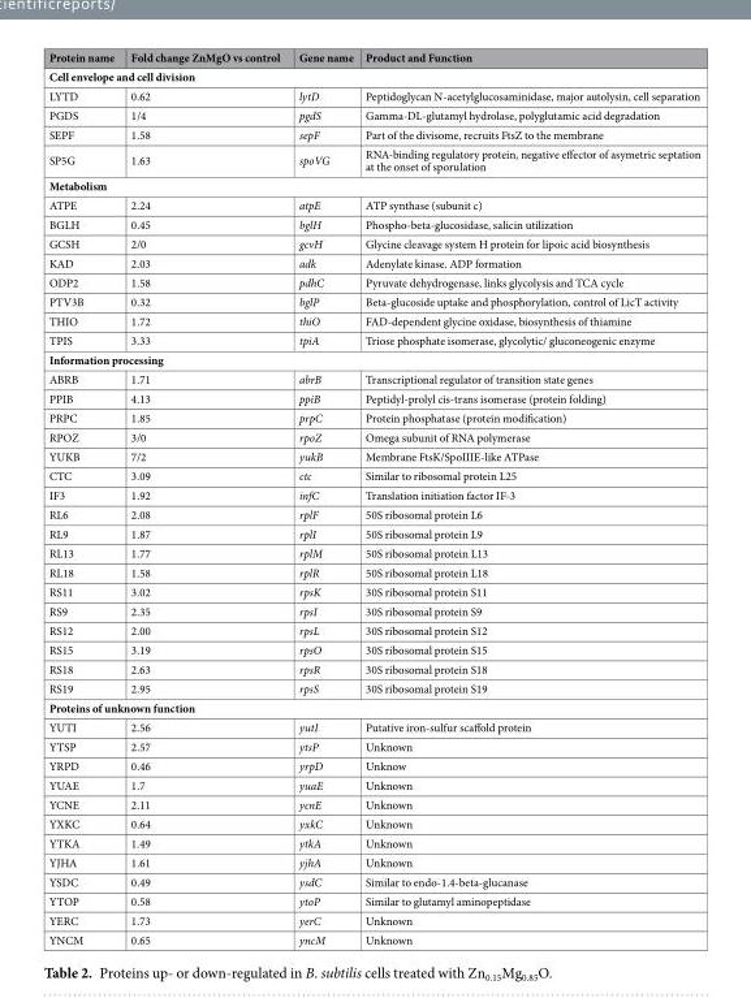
<table><thead><tr><td>Protein name</td><td>Fold change ZnMgO vs control</td><td>Gene name</td><td>Product and Function</td></tr></thead><tbody><tr><td colspan="4">Cell envelope and cell division</td></tr><tr><td>LYTD</td><td>0.62</td><td>lytD</td><td>Peptidoglycan N-acetylglucosaminidase, major autolysin, cell separation</td></tr><tr><td>PGDS</td><td>1/4</td><td>pgdS</td><td>Gamma-DL-glutamyl hydrolase, polyglutamic acid degradation</td></tr><tr><td>SEPF</td><td>1.58</td><td>sepF</td><td>Part of the divisome, recruits FtsZ to the membrane</td></tr><tr><td>SP5G</td><td>1.63</td><td>spoVG</td><td>RNA-binding regulatory protein, negative effector of asymetric septation at the onset of sporulation</td></tr><tr><td colspan="4">Metabolism</td></tr><tr><td>ATPE</td><td>2.24</td><td>atpE</td><td>ATP synthase (subunit c)</td></tr><tr><td>BGLH</td><td>0.45</td><td>bglH</td><td>Phospho-beta-glucosidase, salicin utilization</td></tr><tr><td>GCSH</td><td>2/0</td><td>gcvH</td><td>Glycine cleavage system H protein for lipoic acid biosynthesis</td></tr><tr><td>KAD</td><td>2.03</td><td>adk</td><td>Adenylate kinase. ADP formation</td></tr><tr><td>ODP2</td><td>1.58</td><td>pdhC</td><td>Pyruvate dehydrogenase, links glycolysis and TCA cycle</td></tr><tr><td>PTV3B</td><td>0.32</td><td>bglP</td><td>Beta-glucoside uptake and phosphorylation, control of LicT activity</td></tr><tr><td>THIO</td><td>1.72</td><td>thiO</td><td>FAD-dependent glycine oxidase, biosynthesis of thiamine</td></tr><tr><td>TPIS</td><td>3.33</td><td>tpiA</td><td>Triose phosphate isomerase, glycolytic/ gluconeogenic enzyme</td></tr><tr><td colspan="4">Information processing</td></tr><tr><td>ABRB</td><td>1.71</td><td>abrB</td><td>Transcriptional regulator of transition state genes</td></tr><tr><td>PPIB</td><td>4.13</td><td>ppiB</td><td>Peptidyl-prolyl cis-trans isomerase (protein folding)</td></tr><tr><td>PRPC</td><td>1.85</td><td>prpC</td><td>Protein phosphatase (protein modification)</td></tr><tr><td>RPOZ</td><td>3/0</td><td>rpoZ</td><td>Omega subunit of RNA polymerase</td></tr><tr><td>YUKB</td><td>7/2</td><td>yukB</td><td>Membrane FtsK/SpoIIIE-like ATPase</td></tr><tr><td>CTC</td><td>3.09</td><td>ctc</td><td>Similar to ribosomal protein L25</td></tr><tr><td>IF3</td><td>1.92</td><td>infC</td><td>Translation initiation factor IF-3</td></tr><tr><td>RL6</td><td>2.08</td><td>rplF</td><td>50S ribosomal protein L6</td></tr><tr><td>RL9</td><td>1.87</td><td>rplI</td><td>50S ribosomal protein L9</td></tr><tr><td>RL13</td><td>1.77</td><td>rplM</td><td>50S ribosomal protein L13</td></tr><tr><td>RL18</td><td>1.58</td><td>rplR</td><td>50S ribosomal protein L18</td></tr><tr><td>RS11</td><td>3.02</td><td>rpsK</td><td>30S ribosomal protein S11</td></tr><tr><td>RS9</td><td>2.35</td><td>rpsI</td><td>30S ribosomal protein S9</td></tr><tr><td>RS12</td><td>2.00</td><td>rpsL</td><td>30S ribosomal protein S12</td></tr><tr><td>RS15</td><td>3.19</td><td>rpsO</td><td>30S ribosomal protein S15</td></tr><tr><td>RS18</td><td>2.63</td><td>rpsR</td><td>30S ribosomal protein S18</td></tr><tr><td>RS19</td><td>2.95</td><td>rpsS</td><td>30S ribosomal protein S19</td></tr><tr><td colspan="4">Proteins of unknown function</td></tr><tr><td>YUTI</td><td>2.56</td><td>yutI</td><td>Putative iron-sulfur scaffold protein</td></tr><tr><td>YTSP</td><td>2.57</td><td>ytsP</td><td>Unknown</td></tr><tr><td>YRPD</td><td>0.46</td><td>yrpD</td><td>Unknow</td></tr><tr><td>YUAE</td><td>1.7</td><td>yuaE</td><td>Unknown</td></tr><tr><td>YCNE</td><td>2.11</td><td>ycnE</td><td>Unknown</td></tr><tr><td>YXKC</td><td>0.64</td><td>yxkC</td><td>Unknown</td></tr><tr><td>YTKA</td><td>1.49</td><td>ytkA</td><td>Unknown</td></tr><tr><td>YJHA</td><td>1.61</td><td>yjhA</td><td>Unknown</td></tr><tr><td>YSDC</td><td>0.49</td><td>ysdC</td><td>Similar to endo-1.4-beta-glucanase</td></tr><tr><td>YTOP</td><td>0.58</td><td>ytoP</td><td>Similar to glutamyl aminopeptidase</td></tr><tr><td>YERC</td><td>1.73</td><td>yerC</td><td>Unknown</td></tr><tr><td>YNCM</td><td>0.65</td><td>yncM</td><td>Unknown</td></tr></tbody></table>